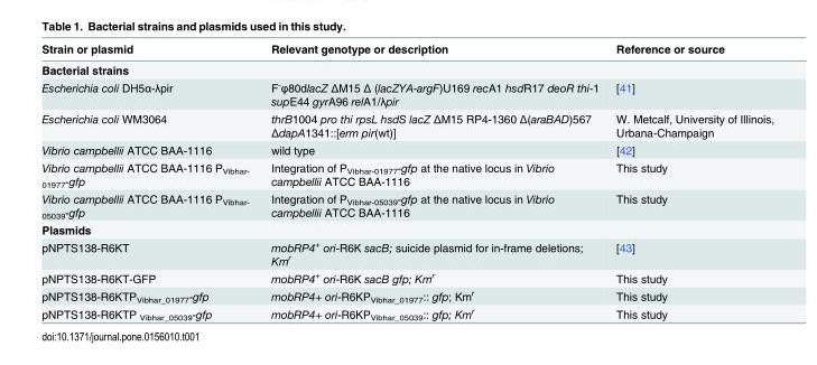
<table><thead><tr><td>Strain or plasmid</td><td>Relevant genotype or description</td><td>Reference or source</td></tr></thead><tbody><tr><td colspan="3">Bacterial strains</td></tr><tr><td>Escherichia coli DH5α-λpir</td><td>F<sup>-</sup>φ80dlacZ ΔM15 Δ (lacZYA-argF)U169 recA1 hsdR17 deoR thi-1 supE44 gyrA96 relA1/λpir</td><td>[41]</td></tr><tr><td>Escherichia coli WM3064</td><td>thrB1004 pro thi rpsL hsdS lacZ ΔM15 RP4-1360 Δ(araBAD)567 ΔdapA1341::[erm pir(wt)]</td><td>W. Metcalf, University of Illinois, Urbana-Champaign</td></tr><tr><td>Vibrio campbellii ATCC BAA-1116</td><td>wild type</td><td>[42]</td></tr><tr><td>Vibrio campbellii ATCC BAA-1116 P<sub>Vibhar- 01977</sub>-gfp</td><td>Integration of P<sub>Vibhar-01977</sub>-gfp at the native locus in Vibrio campbellii ATCC BAA-1116</td><td>This study</td></tr><tr><td>Vibrio campbellii ATCC BAA-1116 P<sub>Vibhar- 05039</sub>-gfp</td><td>Integration of P<sub>Vibhar-05039</sub>-gfp at the native locus in Vibrio campbellii ATCC BAA-1116</td><td>This study</td></tr><tr><td colspan="3">Plasmids</td></tr><tr><td>pNPTS138-R6KT</td><td>mobRP4<sup>+</sup> ori-R6K sacB; suicide plasmid for in-frame deletions; Km<sup>r</sup></td><td>[43]</td></tr><tr><td>pNPTS138-R6KT-GFP</td><td>mobRP4<sup>+</sup> ori-R6K sacB gfp; Km<sup>r</sup></td><td>This study</td></tr><tr><td>pNPTS138-R6KTP<sub>Vibhar_01977</sub>-gfp</td><td>mobRP4+ ori-R6KP<sub>Vibhar_01977</sub>:: gfp; Km<sup>r</sup></td><td>This study</td></tr><tr><td>pNPTS138-R6KTP <sub>Vibhar_05039</sub>-gfp</td><td>mobRP4+ ori-R6KP<sub>Vibhar_05039</sub>:: gfp; Km<sup>r</sup></td><td>This study</td></tr></tbody></table>